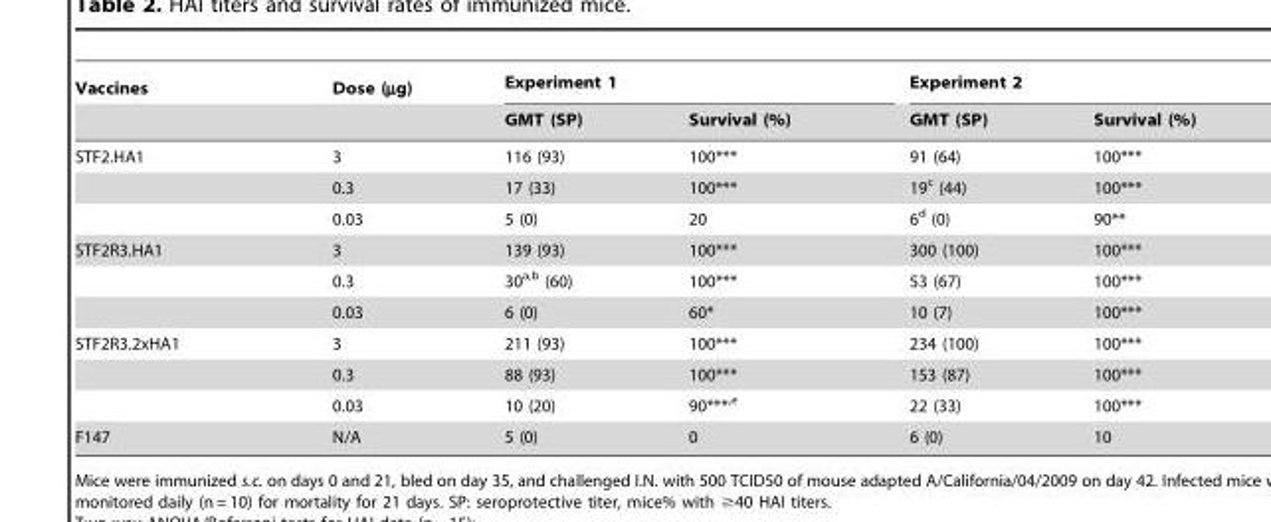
<table><thead><tr><td rowspan="2">Vaccines</td><td rowspan="2">Dose (µg)</td><td colspan="2">Experiment 1</td><td colspan="2">Experiment 2</td></tr><tr><td>GMT (SP)</td><td>Survival (%)</td><td>GMT (SP)</td><td>Survival (%)</td></tr></thead><tbody><tr><td rowspan="3">STF2.HA1</td><td>3</td><td>116 (93)</td><td>100***</td><td>91 (64)</td><td>100***</td></tr><tr><td>0.3</td><td>17 (33)</td><td>100***</td><td>19<sup>c</sup> (44)</td><td>100***</td></tr><tr><td>0.03</td><td>5 (0)</td><td>20</td><td>6<sup>d</sup> (0)</td><td>90**</td></tr><tr><td rowspan="3">STF2R3.HA1</td><td>3</td><td>139 (93)</td><td>100***</td><td>300 (100)</td><td>100***</td></tr><tr><td>0.3</td><td>30<sup>a,</sup>b (60)</td><td>100***</td><td>53 (67)</td><td>100***</td></tr><tr><td>0.03</td><td>6 (0)</td><td>60*</td><td>10 (7)</td><td>100***</td></tr><tr><td rowspan="3">STF2R3.2xHA1</td><td>3</td><td>211 (93)</td><td>100***</td><td>234 (100)</td><td>100***</td></tr><tr><td>0.3</td><td>88 (93)</td><td>100***</td><td>153 (87)</td><td>100***</td></tr><tr><td>0.03</td><td>10 (20)</td><td>90***<sup>,</sup>e</td><td>22 (33)</td><td>100***</td></tr><tr><td>F147</td><td>N/A</td><td>5 (0)</td><td>0</td><td>6 (0)</td><td>10</td></tr></tbody></table>